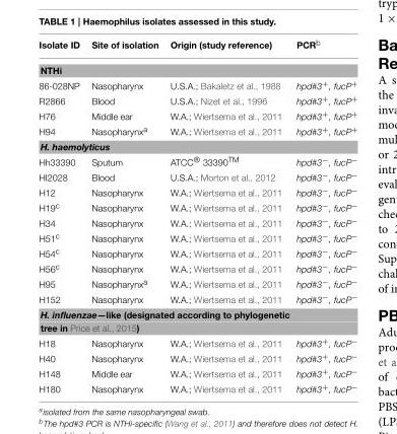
<table><thead><tr><td>Isolate ID</td><td>Site of isolation</td><td>Origin (study reference)</td><td>PCR<sup>b</sup></td></tr></thead><tbody><tr><td colspan="4">NTHi</td></tr><tr><td>86-028NP</td><td>Nasopharynx</td><td>U.S.A.; Bakaletz et al., 1988</td><td>hpd#3<sup>+</sup>, fucP<sup>+</sup></td></tr><tr><td>R2866</td><td>Blood</td><td>U.S.A.; Nizet et al., 1996</td><td>hpd#3<sup>+</sup>, fucP<sup>+</sup></td></tr><tr><td>H76</td><td>Middle ear</td><td>W.A.; Wiertsema et al., 2011</td><td>hpd#3<sup>+</sup>, fucP<sup>+</sup></td></tr><tr><td>H94</td><td>Nasopharynx<sup>a</sup></td><td>W.A.; Wiertsema et al., 2011</td><td>hpd#3<sup>+</sup>, fucP<sup>+</sup></td></tr><tr><td colspan="4">H. haemolyticus</td></tr><tr><td>Hh33390</td><td>Sputum</td><td>ATCC® 33390TM</td><td>hpd#3<sup>−</sup>, fucP<sup>−</sup></td></tr><tr><td>HI2028</td><td>Blood</td><td>U.S.A.; Morton et al., 2012</td><td>hpd#3<sup>−</sup>, fucP<sup>−</sup></td></tr><tr><td>H12</td><td>Nasopharynx</td><td>W.A.; Wiertsema et al., 2011</td><td>hpd#3<sup>−</sup>, fucP<sup>−</sup></td></tr><tr><td>H19<sup>c</sup></td><td>Nasopharynx</td><td>W.A.; Wiertsema et al., 2011</td><td>hpd#3<sup>−</sup>, fucP<sup>−</sup></td></tr><tr><td>H34</td><td>Nasopharynx</td><td>W.A.; Wiertsema et al., 2011</td><td>hpd#3<sup>−</sup>, fucP<sup>−</sup></td></tr><tr><td>H51<sup>c</sup></td><td>Nasopharynx</td><td>W.A.; Wiertsema et al., 2011</td><td>hpd#3<sup>−</sup>, fucP<sup>−</sup></td></tr><tr><td>H54<sup>c</sup></td><td>Nasopharynx</td><td>W.A.; Wiertsema et al., 2011</td><td>hpd#3<sup>−</sup>, fucP<sup>−</sup></td></tr><tr><td>H56<sup>c</sup></td><td>Nasopharynx</td><td>W.A.; Wiertsema et al., 2011</td><td>hpd#3<sup>−</sup>, fucP<sup>−</sup></td></tr><tr><td>H95</td><td>Nasopharynx<sup>a</sup></td><td>W.A.; Wiertsema et al., 2011</td><td>hpd#3<sup>−</sup>, fucP<sup>−</sup></td></tr><tr><td>H152</td><td>Nasopharynx</td><td>W.A.; Wiertsema et al., 2011</td><td>hpd#3<sup>−</sup>, fucP<sup>−</sup></td></tr><tr><td colspan="4">H. influenzae—like (designated according to phylogenetic tree in Price et al., 2015)</td></tr><tr><td>H18</td><td>Nasopharynx</td><td>W.A.; Wiertsema et al., 2011</td><td>hpd#3<sup>+</sup>, fucP<sup>−</sup></td></tr><tr><td>H40</td><td>Nasopharynx</td><td>W.A.; Wiertsema et al., 2011</td><td>hpd#3<sup>+</sup>, fucP<sup>−</sup></td></tr><tr><td>H148</td><td>Middle ear</td><td>W.A.; Wiertsema et al., 2011</td><td>hpd#3<sup>+</sup>, fucP<sup>−</sup></td></tr><tr><td>H180</td><td>Nasopharynx</td><td>W.A.; Wiertsema et al., 2011</td><td>hpd#3<sup>+</sup>, fucP<sup>−</sup></td></tr></tbody></table>